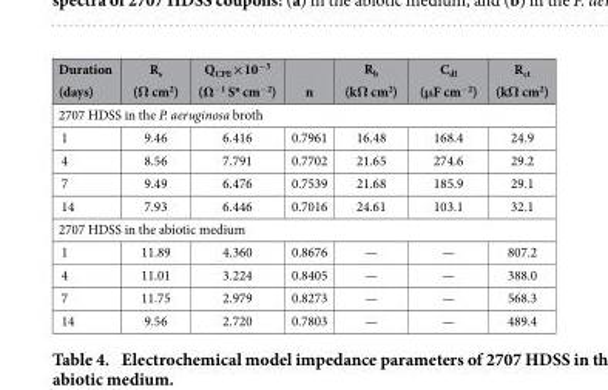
<table><thead><tr><td>Duration (days)</td><td>R<sub>s</sub> (Ω cm<sup>2</sup>)</td><td>Q<sub>CPE</sub>×10<sup>−5</sup> (Ω<sup>−1</sup> S<sup>n</sup> cm<sup>−2</sup>)</td><td>n</td><td>R<sub>b</sub> (kΩ cm<sup>2</sup>)</td><td>C<sub>dl</sub> (μF cm<sup>−2</sup>)</td><td>R<sub>ct</sub> (kΩ cm<sup>2</sup>)</td></tr></thead><tbody><tr><td colspan="7">2707 HDSS in the P. aeruginosa broth</td></tr><tr><td>1</td><td>9.46</td><td>6.416</td><td>0.7961</td><td>16.48</td><td>168.4</td><td>24.9</td></tr><tr><td>4</td><td>8.56</td><td>7.791</td><td>0.7702</td><td>21.65</td><td>274.6</td><td>29.2</td></tr><tr><td>7</td><td>9.49</td><td>6.476</td><td>0.7539</td><td>21.68</td><td>185.9</td><td>29.1</td></tr><tr><td>14</td><td>7.93</td><td>6.446</td><td>0.7016</td><td>24.61</td><td>103.1</td><td>32.1</td></tr><tr><td colspan="7">2707 HDSS in the abiotic medium</td></tr><tr><td>1</td><td>11.89</td><td>4.360</td><td>0.8676</td><td>—</td><td>—</td><td>807.2</td></tr><tr><td>4</td><td>11.01</td><td>3.224</td><td>0.8405</td><td>—</td><td>—</td><td>388.0</td></tr><tr><td>7</td><td>11.75</td><td>2.979</td><td>0.8273</td><td>—</td><td>—</td><td>568.3</td></tr><tr><td>14</td><td>9.56</td><td>2.720</td><td>0.7803</td><td>—</td><td>—</td><td>489.4</td></tr></tbody></table>